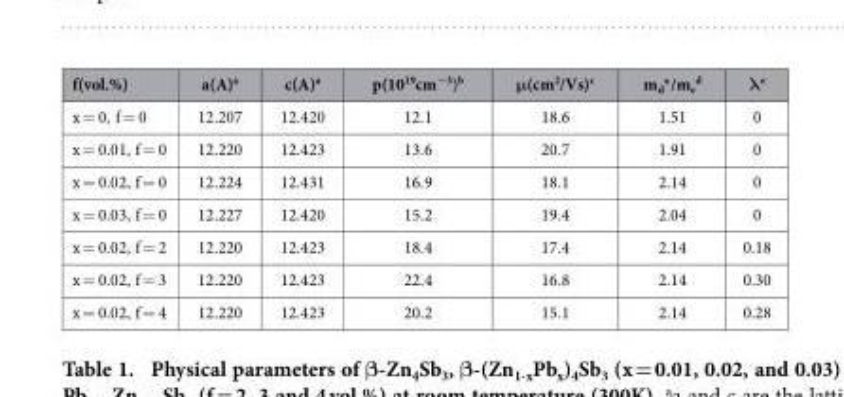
<table><thead><tr><td>f(vol.%)</td><td>a(A)<sup>a</sup></td><td>c(A)<sup>a</sup></td><td>p(10<sup>19</sup>cm<sup>−3</sup>)<sup>b</sup></td><td>μ(cm<sup>2</sup>/Vs)<sup>c</sup></td><td>m<sub>d</sub>*/m<sub>e</sub> <sup>d</sup></td><td>λ<sup>e</sup></td></tr></thead><tbody><tr><td>x = 0, f = 0</td><td>12.207</td><td>12.420</td><td>12.1</td><td>18.6</td><td>1.51</td><td>0</td></tr><tr><td>x = 0.01, f = 0</td><td>12.220</td><td>12.423</td><td>13.6</td><td>20.7</td><td>1.91</td><td>0</td></tr><tr><td>x = 0.02, f = 0</td><td>12.224</td><td>12.431</td><td>16.9</td><td>18.1</td><td>2.14</td><td>0</td></tr><tr><td>x = 0.03, f = 0</td><td>12.227</td><td>12.420</td><td>15.2</td><td>19.4</td><td>2.04</td><td>0</td></tr><tr><td>x = 0.02, f = 2</td><td>12.220</td><td>12.423</td><td>18.4</td><td>17.4</td><td>2.14</td><td>0.18</td></tr><tr><td>x = 0.02, f = 3</td><td>12.220</td><td>12.423</td><td>22.4</td><td>16.8</td><td>2.14</td><td>0.30</td></tr><tr><td>x = 0.02, f = 4</td><td>12.220</td><td>12.423</td><td>20.2</td><td>15.1</td><td>2.14</td><td>0.28</td></tr></tbody></table>